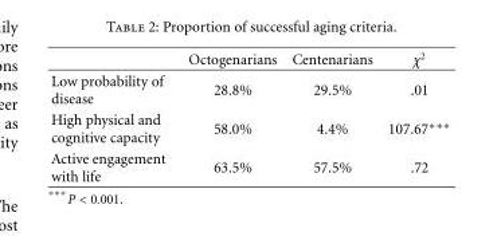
<table><thead><tr><td></td><td>Octogenarians</td><td>Centenarians</td><td>χ<sup>2</sup></td></tr></thead><tbody><tr><td>Low probability of disease</td><td>28.8%</td><td>29.5%</td><td>.01</td></tr><tr><td>High physical and cognitive capacity</td><td>58.0%</td><td>4.4%</td><td>107.67∗∗∗</td></tr><tr><td>Active engagement with life</td><td>63.5%</td><td>57.5%</td><td>.72</td></tr></tbody></table>